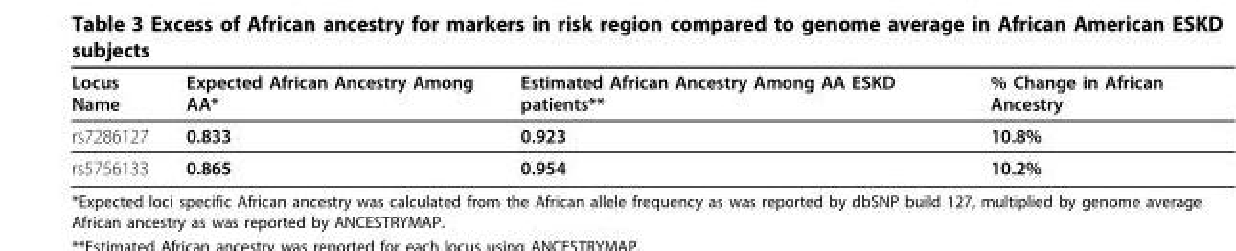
<table><thead><tr><td>Locus Name</td><td>Expected African Ancestry Among AA*</td><td>Estimated African Ancestry Among AA ESKD patients**</td><td>% Change in African Ancestry</td></tr></thead><tbody><tr><td>rs7286127</td><td>0.833</td><td>0.923</td><td>10.8%</td></tr><tr><td>rs5756133</td><td>0.865</td><td>0.954</td><td>10.2%</td></tr></tbody></table>